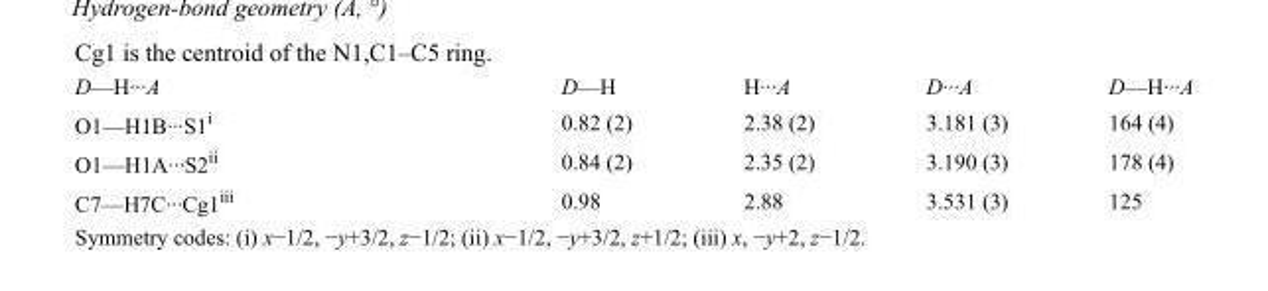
<table><tbody><tr><td>D—H···A</td><td>D—H</td><td>H···A</td><td>D···A</td><td>D—H···A</td></tr><tr><td>O1—H1B···S1<sup>i</sup></td><td>0.82 (2)</td><td>2.38 (2)</td><td>3.181 (3)</td><td>164 (4)</td></tr><tr><td>O1—H1A···S2<sup>ii</sup></td><td>0.84 (2)</td><td>2.35 (2)</td><td>3.190 (3)</td><td>178 (4)</td></tr><tr><td>C7—H7C···Cg1<sup>iii</sup></td><td>0.98</td><td>2.88</td><td>3.531 (3)</td><td>125</td></tr></tbody></table>